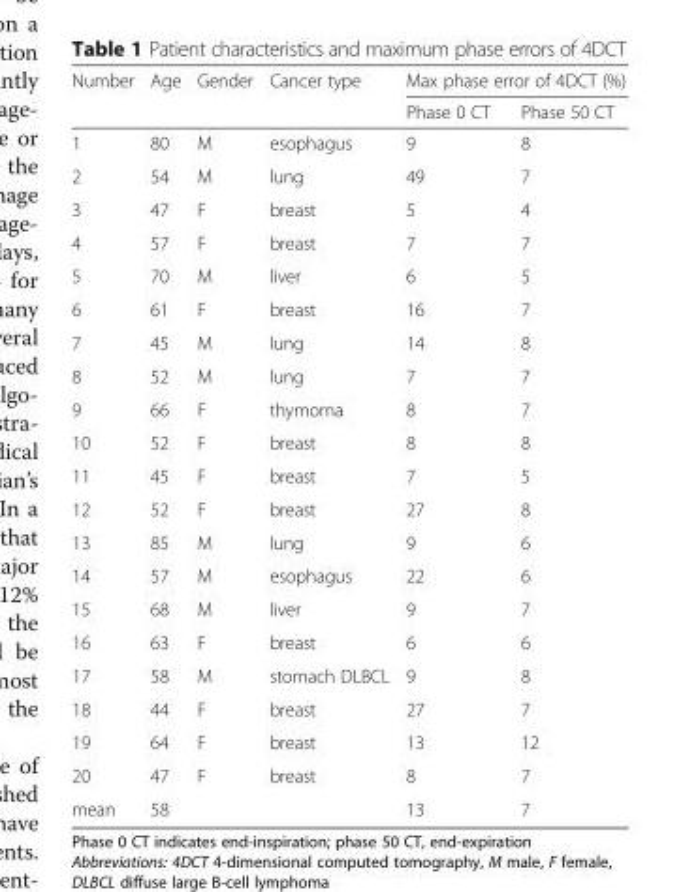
<table><thead><tr><td rowspan="2">Number</td><td rowspan="2">Age</td><td rowspan="2">Gender</td><td rowspan="2">Cancer type</td><td colspan="2">Max phase error of 4DCT (%)</td></tr><tr><td>Phase 0 CT</td><td>Phase 50 CT</td></tr></thead><tbody><tr><td>1</td><td>80</td><td>M</td><td>esophagus</td><td>9</td><td>8</td></tr><tr><td>2</td><td>54</td><td>M</td><td>lung</td><td>49</td><td>7</td></tr><tr><td>3</td><td>47</td><td>F</td><td>breast</td><td>5</td><td>4</td></tr><tr><td>4</td><td>57</td><td>F</td><td>breast</td><td>7</td><td>7</td></tr><tr><td>5</td><td>70</td><td>M</td><td>liver</td><td>6</td><td>5</td></tr><tr><td>6</td><td>61</td><td>F</td><td>breast</td><td>16</td><td>7</td></tr><tr><td>7</td><td>45</td><td>M</td><td>lung</td><td>14</td><td>8</td></tr><tr><td>8</td><td>52</td><td>M</td><td>lung</td><td>7</td><td>7</td></tr><tr><td>9</td><td>66</td><td>F</td><td>thymoma</td><td>8</td><td>7</td></tr><tr><td>10</td><td>52</td><td>F</td><td>breast</td><td>8</td><td>8</td></tr><tr><td>11</td><td>45</td><td>F</td><td>breast</td><td>7</td><td>5</td></tr><tr><td>12</td><td>52</td><td>F</td><td>breast</td><td>27</td><td>8</td></tr><tr><td>13</td><td>85</td><td>M</td><td>lung</td><td>9</td><td>6</td></tr><tr><td>14</td><td>57</td><td>M</td><td>esophagus</td><td>22</td><td>6</td></tr><tr><td>15</td><td>68</td><td>M</td><td>liver</td><td>9</td><td>7</td></tr><tr><td>16</td><td>63</td><td>F</td><td>breast</td><td>6</td><td>6</td></tr><tr><td>17</td><td>58</td><td>M</td><td>stomach DLBCL</td><td>9</td><td>8</td></tr><tr><td>18</td><td>44</td><td>F</td><td>breast</td><td>27</td><td>7</td></tr><tr><td>19</td><td>64</td><td>F</td><td>breast</td><td>13</td><td>12</td></tr><tr><td>20</td><td>47</td><td>F</td><td>breast</td><td>8</td><td>7</td></tr><tr><td>mean</td><td>58</td><td></td><td></td><td>13</td><td>7</td></tr></tbody></table>